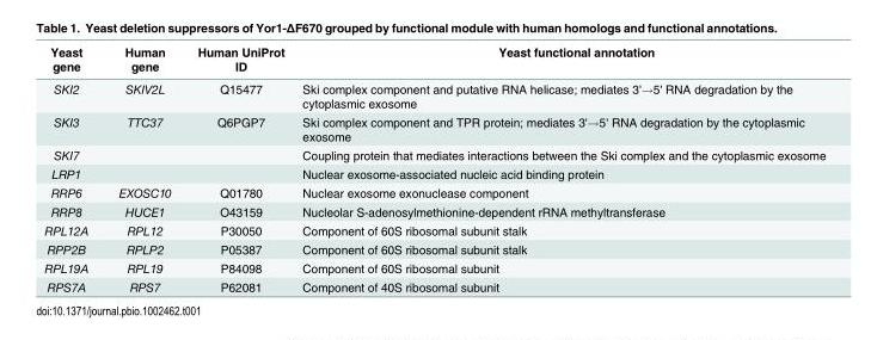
<table><thead><tr><td>Yeast gene</td><td>Human gene</td><td>Human UniProt ID</td><td>Yeast functional annotation</td></tr></thead><tbody><tr><td>SKI2</td><td>SKIV2L</td><td>Q15477</td><td>Ski complex component and putative RNA helicase; mediates 3&#x27;→5&#x27; RNA degradation by the cytoplasmic exosome</td></tr><tr><td>SKI3</td><td>TTC37</td><td>Q6PGP7</td><td>Ski complex component and TPR protein; mediates 3&#x27;→5&#x27; RNA degradation by the cytoplasmic exosome</td></tr><tr><td>SKI7</td><td></td><td></td><td>Coupling protein that mediates interactions between the Ski complex and the cytoplasmic exosome</td></tr><tr><td>LRP1</td><td></td><td></td><td>Nuclear exosome-associated nucleic acid binding protein</td></tr><tr><td>RRP6</td><td>EXOSC10</td><td>Q01780</td><td>Nuclear exosome exonuclease component</td></tr><tr><td>RRP8</td><td>HUCE1</td><td>O43159</td><td>Nucleolar S-adenosylmethionine-dependent rRNA methyltransferase</td></tr><tr><td>RPL12A</td><td>RPL12</td><td>P30050</td><td>Component of 60S ribosomal subunit stalk</td></tr><tr><td>RPP2B</td><td>RPLP2</td><td>P05387</td><td>Component of 60S ribosomal subunit stalk</td></tr><tr><td>RPL19A</td><td>RPL19</td><td>P84098</td><td>Component of 60S ribosomal subunit</td></tr><tr><td>RPS7A</td><td>RPS7</td><td>P62081</td><td>Component of 40S ribosomal subunit</td></tr></tbody></table>